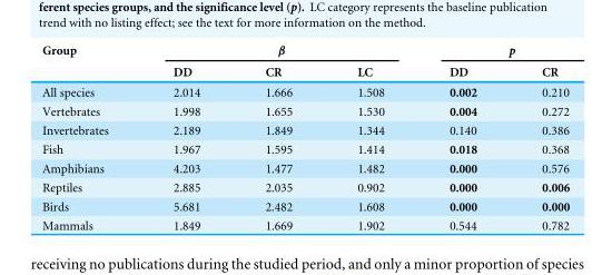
<table><thead><tr><td rowspan="2">Group</td><td colspan="3">β</td><td colspan="2">p</td></tr><tr><td>DD</td><td>CR</td><td>LC</td><td>DD</td><td>CR</td></tr></thead><tbody><tr><td>All species</td><td>2.014</td><td>1.666</td><td>1.508</td><td>0.002</td><td>0.210</td></tr><tr><td>Vertebrates</td><td>1.998</td><td>1.655</td><td>1.530</td><td>0.004</td><td>0.272</td></tr><tr><td>Invertebrates</td><td>2.189</td><td>1.849</td><td>1.344</td><td>0.140</td><td>0.386</td></tr><tr><td>Fish</td><td>1.967</td><td>1.595</td><td>1.414</td><td>0.018</td><td>0.368</td></tr><tr><td>Amphibians</td><td>4.203</td><td>1.477</td><td>1.482</td><td>0.000</td><td>0.576</td></tr><tr><td>Reptiles</td><td>2.885</td><td>2.035</td><td>0.902</td><td>0.000</td><td>0.006</td></tr><tr><td>Birds</td><td>5.681</td><td>2.482</td><td>1.608</td><td>0.000</td><td>0.000</td></tr><tr><td>Mammals</td><td>1.849</td><td>1.669</td><td>1.902</td><td>0.544</td><td>0.782</td></tr></tbody></table>